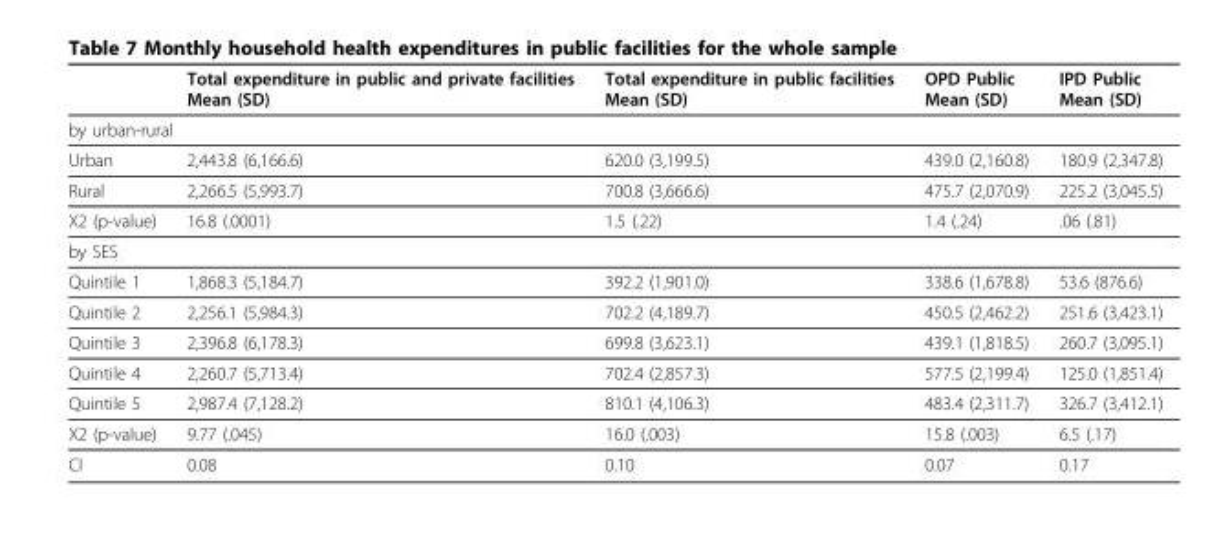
<table><thead><tr><td></td><td>Total expenditure in public and private facilities Mean (SD)</td><td>Total expenditure in public facilities Mean (SD)</td><td>OPD Public Mean (SD)</td><td>IPD Public Mean (SD)</td></tr></thead><tbody><tr><td colspan="5">by urban-rural</td></tr><tr><td>Urban</td><td>2,443.8 (6,166.6)</td><td>620.0 (3,199.5)</td><td>439.0 (2,160.8)</td><td>180.9 (2,347.8)</td></tr><tr><td>Rural</td><td>2,266.5 (5,993.7)</td><td>700.8 (3,666.6)</td><td>475.7 (2,070.9)</td><td>225.2 (3,045.5)</td></tr><tr><td>X2 (p-value)</td><td>16.8 (.0001)</td><td>1.5 (.22)</td><td>1.4 (.24)</td><td>.06 (.81)</td></tr><tr><td colspan="5">by SES</td></tr><tr><td>Quintile 1</td><td>1,868.3 (5,184.7)</td><td>392.2 (1,901.0)</td><td>338.6 (1,678.8)</td><td>53.6 (876.6)</td></tr><tr><td>Quintile 2</td><td>2,256.1 (5,984.3)</td><td>702.2 (4,189.7)</td><td>450.5 (2,462.2)</td><td>251.6 (3,423.1)</td></tr><tr><td>Quintile 3</td><td>2,396.8 (6,178.3)</td><td>699.8 (3,623.1)</td><td>439.1 (1,818.5)</td><td>260.7 (3,095.1)</td></tr><tr><td>Quintile 4</td><td>2,260.7 (5,713.4)</td><td>702.4 (2,857.3)</td><td>577.5 (2,199.4)</td><td>125.0 (1,851.4)</td></tr><tr><td>Quintile 5</td><td>2,987.4 (7,128.2)</td><td>810.1 (4,106.3)</td><td>483.4 (2,311.7)</td><td>326.7 (3,412.1)</td></tr><tr><td>X2 (p-value)</td><td>9.77 (.045)</td><td>16.0 (.003)</td><td>15.8 (.003)</td><td>6.5 (.17)</td></tr><tr><td>CI</td><td>0.08</td><td>0.10</td><td>0.07</td><td>0.17</td></tr></tbody></table>